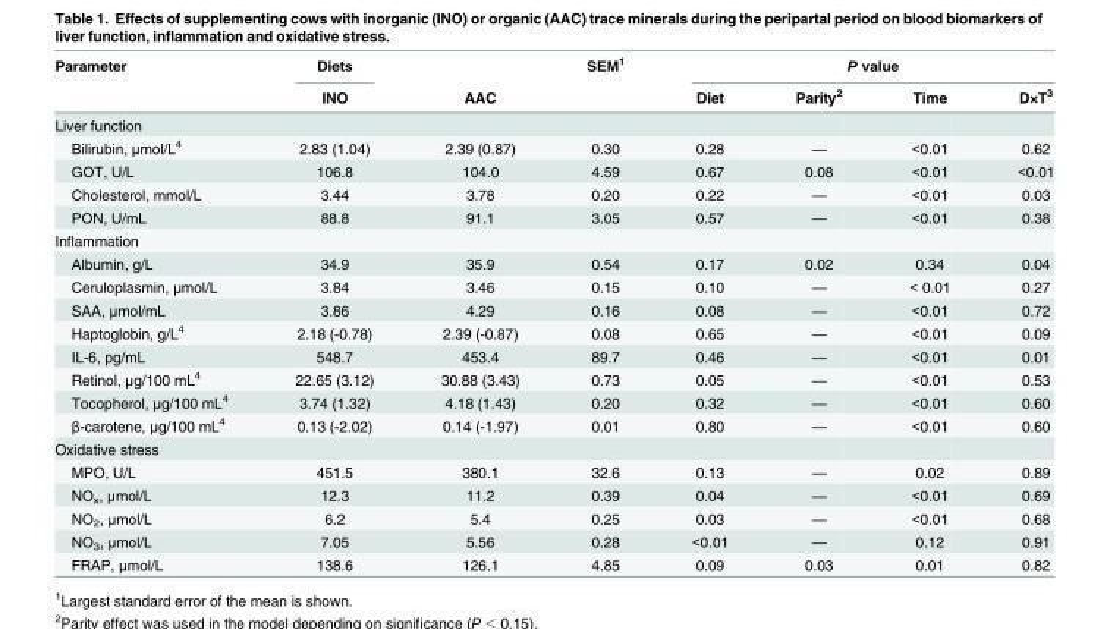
<table><thead><tr><td rowspan="2">Parameter</td><td rowspan="2">Diets INO</td><td rowspan="2">AAC</td><td rowspan="2">SEM<sup>1</sup></td><td colspan="4">P value</td></tr><tr><td>Diet</td><td>Parity<sup>2</sup></td><td>Time</td><td>D×T<sup>3</sup></td></tr></thead><tbody><tr><td colspan="8">Liver function</td></tr><tr><td>Bilirubin, μmol/L<sup>4</sup></td><td>2.83 (1.04)</td><td>2.39 (0.87)</td><td>0.30</td><td>0.28</td><td>—</td><td>&lt;0.01</td><td>0.62</td></tr><tr><td>GOT, U/L</td><td>106.8</td><td>104.0</td><td>4.59</td><td>0.67</td><td>0.08</td><td>&lt;0.01</td><td>&lt;0.01</td></tr><tr><td>Cholesterol, mmol/L</td><td>3.44</td><td>3.78</td><td>0.20</td><td>0.22</td><td>—</td><td>&lt;0.01</td><td>0.03</td></tr><tr><td>PON, U/mL</td><td>88.8</td><td>91.1</td><td>3.05</td><td>0.57</td><td>—</td><td>&lt;0.01</td><td>0.38</td></tr><tr><td colspan="8">Inflammation</td></tr><tr><td>Albumin, g/L</td><td>34.9</td><td>35.9</td><td>0.54</td><td>0.17</td><td>0.02</td><td>0.34</td><td>0.04</td></tr><tr><td>Ceruloplasmin, μmol/L</td><td>3.84</td><td>3.46</td><td>0.15</td><td>0.10</td><td>—</td><td>&lt; 0.01</td><td>0.27</td></tr><tr><td>SAA, μmol/mL</td><td>3.86</td><td>4.29</td><td>0.16</td><td>0.08</td><td>—</td><td>&lt;0.01</td><td>0.72</td></tr><tr><td>Haptoglobin, g/L<sup>4</sup></td><td>2.18 (-0.78)</td><td>2.39 (-0.87)</td><td>0.08</td><td>0.65</td><td>—</td><td>&lt;0.01</td><td>0.09</td></tr><tr><td>IL-6, pg/mL</td><td>548.7</td><td>453.4</td><td>89.7</td><td>0.46</td><td>—</td><td>&lt;0.01</td><td>0.01</td></tr><tr><td>Retinol, μg/100 mL<sup>4</sup></td><td>22.65 (3.12)</td><td>30.88 (3.43)</td><td>0.73</td><td>0.05</td><td>—</td><td>&lt;0.01</td><td>0.53</td></tr><tr><td>Tocopherol, μg/100 mL<sup>4</sup></td><td>3.74 (1.32)</td><td>4.18 (1.43)</td><td>0.20</td><td>0.32</td><td>—</td><td>&lt;0.01</td><td>0.60</td></tr><tr><td>β-carotene, μg/100 mL<sup>4</sup></td><td>0.13 (-2.02)</td><td>0.14 (-1.97)</td><td>0.01</td><td>0.80</td><td>—</td><td>&lt;0.01</td><td>0.60</td></tr><tr><td colspan="8">Oxidative stress</td></tr><tr><td>MPO, U/L</td><td>451.5</td><td>380.1</td><td>32.6</td><td>0.13</td><td>—</td><td>0.02</td><td>0.89</td></tr><tr><td>NO<sub>x</sub>, μmol/L</td><td>12.3</td><td>11.2</td><td>0.39</td><td>0.04</td><td>—</td><td>&lt;0.01</td><td>0.69</td></tr><tr><td>NO<sub>2</sub>, μmol/L</td><td>6.2</td><td>5.4</td><td>0.25</td><td>0.03</td><td>—</td><td>&lt;0.01</td><td>0.68</td></tr><tr><td>NO<sub>3</sub>, μmol/L</td><td>7.05</td><td>5.56</td><td>0.28</td><td>&lt;0.01</td><td>—</td><td>0.12</td><td>0.91</td></tr><tr><td>FRAP, μmol/L</td><td>138.6</td><td>126.1</td><td>4.85</td><td>0.09</td><td>0.03</td><td>0.01</td><td>0.82</td></tr></tbody></table>